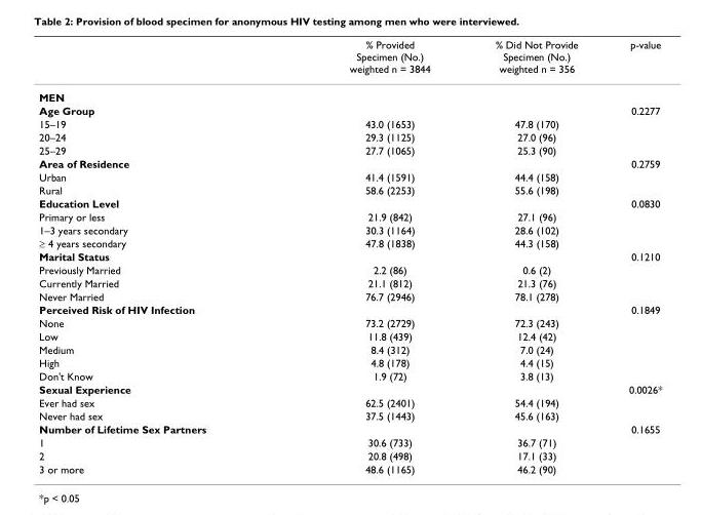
<table><thead><tr><td></td><td>% Provided Specimen (No.) weighted n = 3844</td><td>% Did Not Provide Specimen (No.) weighted n = 356</td><td>p-value</td></tr></thead><tbody><tr><td colspan="4">MEN</td></tr><tr><td>Age Group</td><td></td><td></td><td>0.2277</td></tr><tr><td>15–19</td><td>43.0 (1653)</td><td>47.8 (170)</td><td></td></tr><tr><td>20–24</td><td>29.3 (1125)</td><td>27.0 (96)</td><td></td></tr><tr><td>25–29</td><td>27.7 (1065)</td><td>25.3 (90)</td><td></td></tr><tr><td>Area of Residence</td><td></td><td></td><td>0.2759</td></tr><tr><td>Urban</td><td>41.4 (1591)</td><td>44.4 (158)</td><td></td></tr><tr><td>Rural</td><td>58.6 (2253)</td><td>55.6 (198)</td><td></td></tr><tr><td>Education Level</td><td></td><td></td><td>0.0830</td></tr><tr><td>Primary or less</td><td>21.9 (842)</td><td>27.1 (96)</td><td></td></tr><tr><td>1–3 years secondary</td><td>30.3 (1164)</td><td>28.6 (102)</td><td></td></tr><tr><td>≥ 4 years secondary</td><td>47.8 (1838)</td><td>44.3 (158)</td><td></td></tr><tr><td>Marital Status</td><td></td><td></td><td>0.1210</td></tr><tr><td>Previously Married</td><td>2.2 (86)</td><td>0.6 (2)</td><td></td></tr><tr><td>Currently Married</td><td>21.1 (812)</td><td>21.3 (76)</td><td></td></tr><tr><td>Never Married</td><td>76.7 (2946)</td><td>78.1 (278)</td><td></td></tr><tr><td>Perceived Risk of HIV Infection</td><td></td><td></td><td>0.1849</td></tr><tr><td>None</td><td>73.2 (2729)</td><td>72.3 (243)</td><td></td></tr><tr><td>Low</td><td>11.8 (439)</td><td>12.4 (42)</td><td></td></tr><tr><td>Medium</td><td>8.4 (312)</td><td>7.0 (24)</td><td></td></tr><tr><td>High</td><td>4.8 (178)</td><td>4.4 (15)</td><td></td></tr><tr><td>Don&#x27;t Know</td><td>1.9 (72)</td><td>3.8 (13)</td><td></td></tr><tr><td>Sexual Experience</td><td></td><td></td><td>0.0026*</td></tr><tr><td>Ever had sex</td><td>62.5 (2401)</td><td>54.4 (194)</td><td></td></tr><tr><td>Never had sex</td><td>37.5 (1443)</td><td>45.6 (163)</td><td></td></tr><tr><td>Number of Lifetime Sex Partners</td><td></td><td></td><td>0.1655</td></tr><tr><td>1</td><td>30.6 (733)</td><td>36.7 (71)</td><td></td></tr><tr><td>2</td><td>20.8 (498)</td><td>17.1 (33)</td><td></td></tr><tr><td>3 or more</td><td>48.6 (1165)</td><td>46.2 (90)</td><td></td></tr></tbody></table>